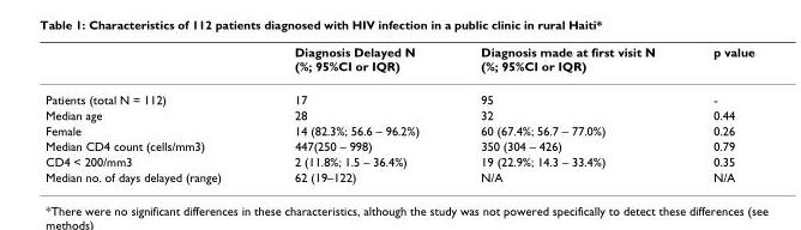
<table><thead><tr><td></td><td>Diagnosis Delayed N (%; 95%CI or IQR)</td><td>Diagnosis made at first visit N (%; 95%CI or IQR)</td><td>p value</td></tr></thead><tbody><tr><td>Patients (total N = 112)</td><td>17</td><td>95</td><td>-</td></tr><tr><td>Median age</td><td>28</td><td>32</td><td>0.44</td></tr><tr><td>Female</td><td>14 (82.3%; 56.6 – 96.2%)</td><td>60 (67.4%; 56.7 – 77.0%)</td><td>0.26</td></tr><tr><td>Median CD4 count (cells/mm3)</td><td>447(250 – 998)</td><td>350 (304 – 426)</td><td>0.79</td></tr><tr><td>CD4 &lt; 200/mm3</td><td>2 (11.8%; 1.5 – 36.4%)</td><td>19 (22.9%; 14.3 – 33.4%)</td><td>0.35</td></tr><tr><td>Median no. of days delayed (range)</td><td>62 (19–122)</td><td>N/A</td><td>N/A</td></tr></tbody></table>